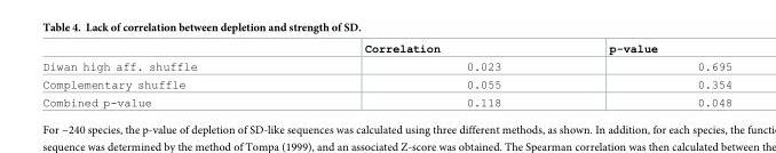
<table><thead><tr><td></td><td>Correlation</td><td>p-value</td></tr></thead><tbody><tr><td>Diwan high aff. shuffle</td><td>0.023</td><td>0.695</td></tr><tr><td>Complementary shuffle</td><td>0.055</td><td>0.354</td></tr><tr><td>Combined p-value</td><td>0.118</td><td>0.048</td></tr></tbody></table>